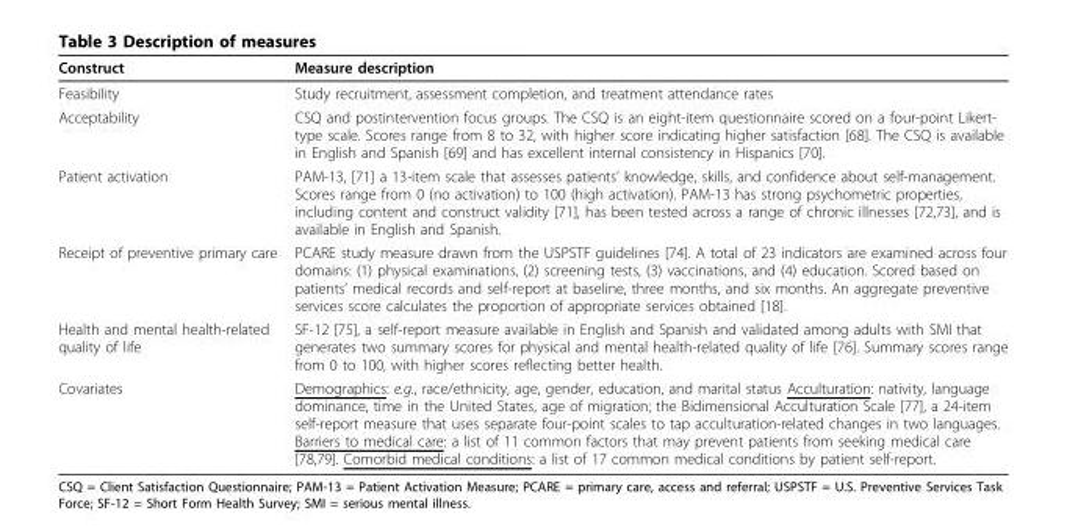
<table><thead><tr><td>Construct</td><td>Measure description</td></tr></thead><tbody><tr><td>Feasibility</td><td>Study recruitment, assessment completion, and treatment attendance rates</td></tr><tr><td>Acceptability</td><td>CSQ and postintervention focus groups. The CSQ is an eight-item questionnaire scored on a four-point Likert- type scale. Scores range from 8 to 32, with higher score indicating higher satisfaction [68]. The CSQ is available in English and Spanish [69] and has excellent internal consistency in Hispanics [70].</td></tr><tr><td>Patient activation</td><td>PAM-13, [71] a 13-item scale that assesses patients’ knowledge, skills, and confidence about self-management. Scores range from 0 (no activation) to 100 (high activation). PAM-13 has strong psychometric properties, including content and construct validity [71], has been tested across a range of chronic illnesses [72,73], and is available in English and Spanish.</td></tr><tr><td>Receipt of preventive primary care</td><td>PCARE study measure drawn from the USPSTF guidelines [74]. A total of 23 indicators are examined across four domains: (1) physical examinations, (2) screening tests, (3) vaccinations, and (4) education. Scored based on patients’ medical records and self-report at baseline, three months, and six months. An aggregate preventive services score calculates the proportion of appropriate services obtained [18].</td></tr><tr><td>Health and mental health-related quality of life</td><td>SF-12 [75], a self-report measure available in English and Spanish and validated among adults with SMI that generates two summary scores for physical and mental health-related quality of life [76]. Summary scores range from 0 to 100, with higher scores reflecting better health.</td></tr><tr><td>Covariates</td><td>Demographics: e.g., race/ethnicity, age, gender, education, and marital status Acculturation: nativity, language dominance, time in the United States, age of migration; the Bidimensional Acculturation Scale [77], a 24-item self-report measure that uses separate four-point scales to tap acculturation-related changes in two languages. Barriers to medical care: a list of 11 common factors that may prevent patients from seeking medical care [78,79]. Comorbid medical conditions: a list of 17 common medical conditions by patient self-report.</td></tr></tbody></table>